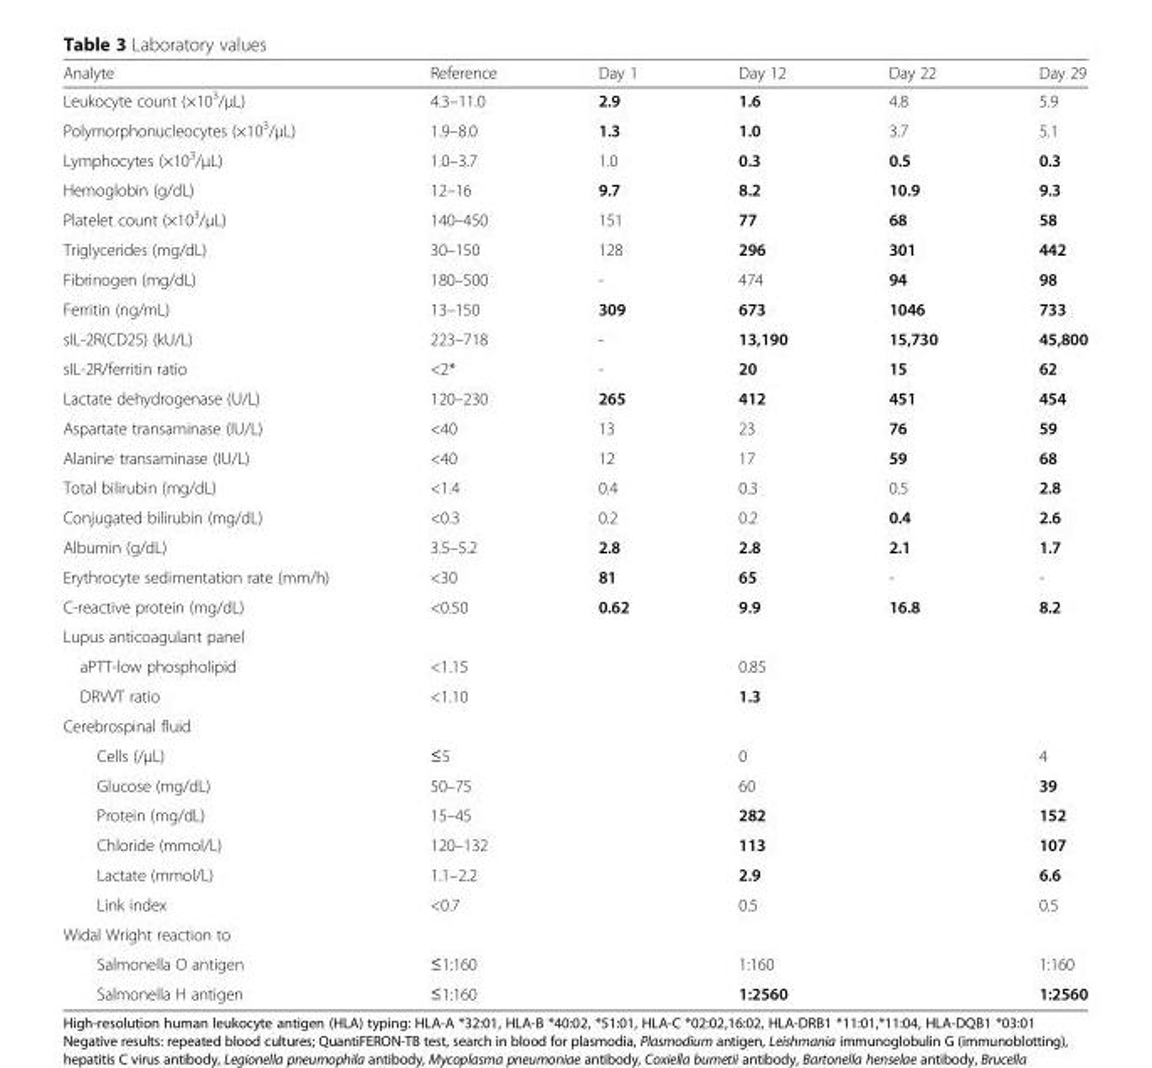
<table><thead><tr><td>Analyte</td><td>Reference</td><td>Day 1</td><td>Day 12</td><td>Day 22</td><td>Day 29</td></tr></thead><tbody><tr><td>Leukocyte count (×10<sup>3</sup>/μL)</td><td>4.3–11.0</td><td>2.9</td><td>1.6</td><td>4.8</td><td>5.9</td></tr><tr><td>Polymorphonucleocytes (×10<sup>3</sup>/μL)</td><td>1.9–8.0</td><td>1.3</td><td>1.0</td><td>3.7</td><td>5.1</td></tr><tr><td>Lymphocytes (×10<sup>3</sup>/μL)</td><td>1.0–3.7</td><td>1.0</td><td>0.3</td><td>0.5</td><td>0.3</td></tr><tr><td>Hemoglobin (g/dL)</td><td>12–16</td><td>9.7</td><td>8.2</td><td>10.9</td><td>9.3</td></tr><tr><td>Platelet count (×10<sup>3</sup>/μL)</td><td>140–450</td><td>151</td><td>77</td><td>68</td><td>58</td></tr><tr><td>Triglycerides (mg/dL)</td><td>30–150</td><td>128</td><td>296</td><td>301</td><td>442</td></tr><tr><td>Fibrinogen (mg/dL)</td><td>180–500</td><td>-</td><td>474</td><td>94</td><td>98</td></tr><tr><td>Ferritin (ng/mL)</td><td>13–150</td><td>309</td><td>673</td><td>1046</td><td>733</td></tr><tr><td>sIL-2R(CD25) (kU/L)</td><td>223–718</td><td>-</td><td>13,190</td><td>15,730</td><td>45,800</td></tr><tr><td>sIL-2R/ferritin ratio</td><td>&lt;2*</td><td>-</td><td>20</td><td>15</td><td>62</td></tr><tr><td>Lactate dehydrogenase (U/L)</td><td>120–230</td><td>265</td><td>412</td><td>451</td><td>454</td></tr><tr><td>Aspartate transaminase (IU/L)</td><td>&lt;40</td><td>13</td><td>23</td><td>76</td><td>59</td></tr><tr><td>Alanine transaminase (IU/L)</td><td>&lt;40</td><td>12</td><td>17</td><td>59</td><td>68</td></tr><tr><td>Total bilirubin (mg/dL)</td><td>&lt;1.4</td><td>0.4</td><td>0.3</td><td>0.5</td><td>2.8</td></tr><tr><td>Conjugated bilirubin (mg/dL)</td><td>&lt;0.3</td><td>0.2</td><td>0.2</td><td>0.4</td><td>2.6</td></tr><tr><td>Albumin (g/dL)</td><td>3.5–5.2</td><td>2.8</td><td>2.8</td><td>2.1</td><td>1.7</td></tr><tr><td>Erythrocyte sedimentation rate (mm/h)</td><td>&lt;30</td><td>81</td><td>65</td><td>-</td><td>-</td></tr><tr><td>C-reactive protein (mg/dL)</td><td>&lt;0.50</td><td>0.62</td><td>9.9</td><td>16.8</td><td>8.2</td></tr><tr><td colspan="6">Lupus anticoagulant panel</td></tr><tr><td>aPTT-low phospholipid</td><td>&lt;1.15</td><td></td><td>0.85</td><td></td><td></td></tr><tr><td>DRVVT ratio</td><td>&lt;1.10</td><td></td><td>1.3</td><td></td><td></td></tr><tr><td colspan="6">Cerebrospinal fluid</td></tr><tr><td>Cells (/μL)</td><td>≤5</td><td></td><td>0</td><td></td><td>4</td></tr><tr><td>Glucose (mg/dL)</td><td>50–75</td><td></td><td>60</td><td></td><td>39</td></tr><tr><td>Protein (mg/dL)</td><td>15–45</td><td></td><td>282</td><td></td><td>152</td></tr><tr><td>Chloride (mmol/L)</td><td>120–132</td><td></td><td>113</td><td></td><td>107</td></tr><tr><td>Lactate (mmol/L)</td><td>1.1–2.2</td><td></td><td>2.9</td><td></td><td>6.6</td></tr><tr><td>Link index</td><td>&lt;0.7</td><td></td><td>0.5</td><td></td><td>0.5</td></tr><tr><td colspan="6">Widal Wright reaction to</td></tr><tr><td>Salmonella O antigen</td><td>≤1:160</td><td></td><td>1:160</td><td></td><td>1:160</td></tr><tr><td>Salmonella H antigen</td><td>≤1:160</td><td></td><td>1:2560</td><td></td><td>1:2560</td></tr></tbody></table>